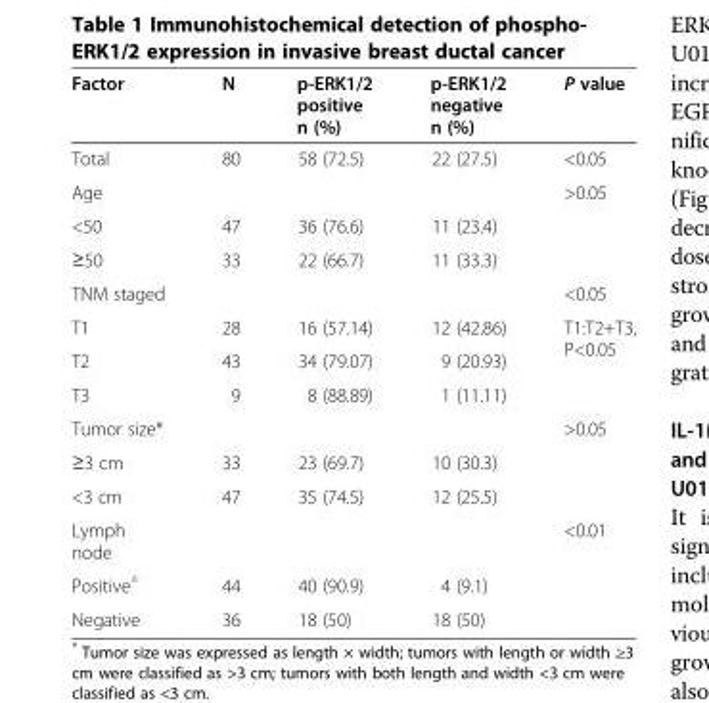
<table><thead><tr><td>Factor</td><td>N</td><td>p-ERK1/2 positive n (%)</td><td>p-ERK1/2 negative n (%)</td><td>P value</td></tr></thead><tbody><tr><td>Total</td><td>80</td><td>58 (72.5)</td><td>22 (27.5)</td><td>&lt;0.05</td></tr><tr><td>Age</td><td></td><td></td><td></td><td>&gt;0.05</td></tr><tr><td>&lt;50</td><td>47</td><td>36 (76.6)</td><td>11 (23.4)</td><td></td></tr><tr><td>≥50</td><td>33</td><td>22 (66.7)</td><td>11 (33.3)</td><td></td></tr><tr><td>TNM staged</td><td></td><td></td><td></td><td>&lt;0.05</td></tr><tr><td>T1</td><td>28</td><td>16 (57.14)</td><td>12 (42.86)</td><td rowspan="3">T1:T2+T3, P&lt;0.05</td></tr><tr><td>T2</td><td>43</td><td>34 (79.07)</td><td>9 (20.93)</td></tr><tr><td>T3</td><td>9</td><td>8 (88.89)</td><td>1 (11.11)</td></tr><tr><td>Tumor size*</td><td></td><td></td><td></td><td>&gt;0.05</td></tr><tr><td>≥3 cm</td><td>33</td><td>23 (69.7)</td><td>10 (30.3)</td><td></td></tr><tr><td>&lt;3 cm</td><td>47</td><td>35 (74.5)</td><td>12 (25.5)</td><td></td></tr><tr><td>Lymph node</td><td></td><td></td><td></td><td>&lt;0.01</td></tr><tr><td>Positive<sup>△</sup></td><td>44</td><td>40 (90.9)</td><td>4 (9.1)</td><td></td></tr><tr><td>Negative</td><td>36</td><td>18 (50)</td><td>18 (50)</td><td></td></tr></tbody></table>